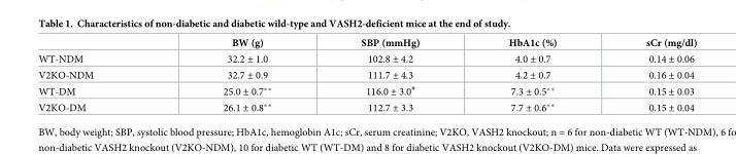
<table><thead><tr><td></td><td>BW (g)</td><td>SBP (mmHg)</td><td>HbA1c (%)</td><td>sCr (mg/dl)</td></tr></thead><tbody><tr><td>WT-NDM</td><td>32.2 ± 1.0</td><td>102.8 ± 4.2</td><td>4.0 ± 0.7</td><td>0.14 ± 0.06</td></tr><tr><td>V2KO-NDM</td><td>32.7 ± 0.9</td><td>111.7 ± 4.3</td><td>4.2 ± 0.7</td><td>0.16 ± 0.04</td></tr><tr><td>WT-DM</td><td>25.0 ± 0.7**</td><td>116.0 ± 3.0<sup>#</sup></td><td>7.3 ± 0.5**</td><td>0.15 ± 0.03</td></tr><tr><td>V2KO-DM</td><td>26.1 ± 0.8**</td><td>112.7 ± 3.3</td><td>7.7 ± 0.6**</td><td>0.15 ± 0.04</td></tr></tbody></table>